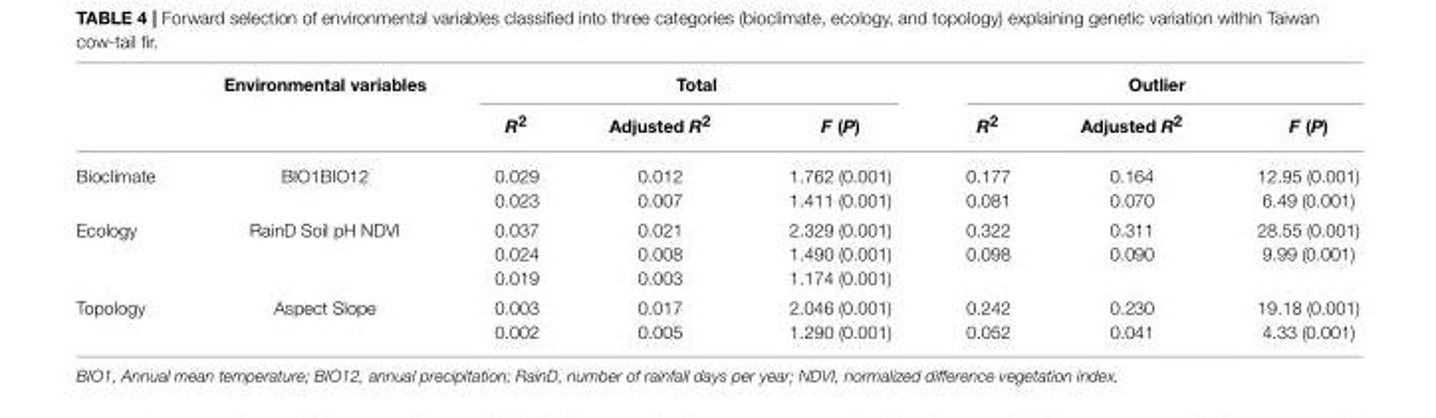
<table><thead><tr><td rowspan="2"></td><td rowspan="2">Environmental variables</td><td colspan="3">Total</td><td colspan="3">Outlier</td></tr><tr><td>R<sup>2</sup></td><td>Adjusted R<sup>2</sup></td><td>F (P)</td><td>R<sup>2</sup></td><td>Adjusted R<sup>2</sup></td><td>F (P)</td></tr></thead><tbody><tr><td>Bioclimate</td><td>BIO1BIO12</td><td>0.029 0.023</td><td>0.012 0.007</td><td>1.762 (0.001) 1.411 (0.001)</td><td>0.177 0.081</td><td>0.164 0.070</td><td>12.95 (0.001) 6.49 (0.001)</td></tr><tr><td>Ecology</td><td>RainD Soil pH NDVI</td><td>0.037 0.024 0.019</td><td>0.021 0.008 0.003</td><td>2.329 (0.001) 1.490 (0.001) 1.174 (0.001)</td><td>0.322 0.098</td><td>0.311 0.090</td><td>28.55 (0.001) 9.99 (0.001)</td></tr><tr><td>Topology</td><td>Aspect Slope</td><td>0.003 0.002</td><td>0.017 0.005</td><td>2.046 (0.001) 1.290 (0.001)</td><td>0.242 0.052</td><td>0.230 0.041</td><td>19.18 (0.001) 4.33 (0.001)</td></tr></tbody></table>